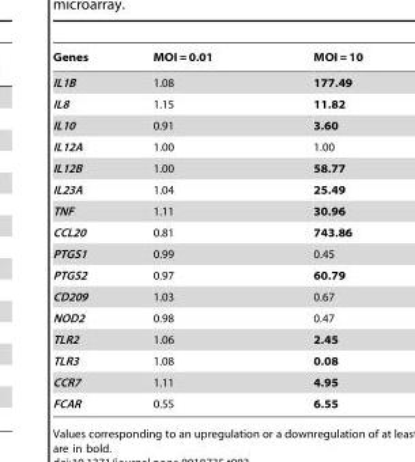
<table><thead><tr><td>Genes</td><td>MOI = 0.01</td><td>MOI = 10</td></tr></thead><tbody><tr><td>IL1B</td><td>1.08</td><td>177.49</td></tr><tr><td>IL8</td><td>1.15</td><td>11.82</td></tr><tr><td>IL10</td><td>0.91</td><td>3.60</td></tr><tr><td>IL12A</td><td>1.00</td><td>1.00</td></tr><tr><td>IL12B</td><td>1.00</td><td>58.77</td></tr><tr><td>IL23A</td><td>1.04</td><td>25.49</td></tr><tr><td>TNF</td><td>1.11</td><td>30.96</td></tr><tr><td>CCL20</td><td>0.81</td><td>743.86</td></tr><tr><td>PTGS1</td><td>0.99</td><td>0.45</td></tr><tr><td>PTGS2</td><td>0.97</td><td>60.79</td></tr><tr><td>CD209</td><td>1.03</td><td>0.67</td></tr><tr><td>NOD2</td><td>0.98</td><td>0.47</td></tr><tr><td>TLR2</td><td>1.06</td><td>2.45</td></tr><tr><td>TLR3</td><td>1.08</td><td>0.08</td></tr><tr><td>CCR7</td><td>1.11</td><td>4.95</td></tr><tr><td>FCAR</td><td>0.55</td><td>6.55</td></tr></tbody></table>